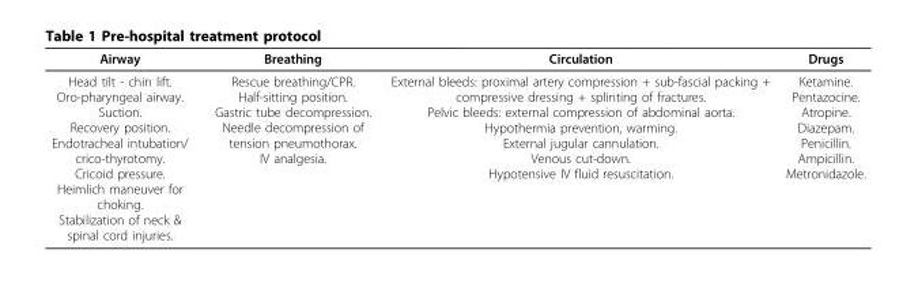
<table><thead><tr><td>Airway</td><td>Breathing</td><td>Circulation</td><td>Drugs</td></tr></thead><tbody><tr><td>Head tilt - chin lift. Oro-pharyngeal airway. Suction. Recovery position. Endotracheal intubation/ crico-thyrotomy. Cricoid pressure. Heimlich maneuver for choking. Stabilization of neck &amp; spinal cord injuries.</td><td>Rescue breathing/CPR. Half-sitting position. Gastric tube decompression. Needle decompression of tension pneumothorax. IV analgesia.</td><td>External bleeds: proximal artery compression + sub-fascial packing + compressive dressing + splinting of fractures. Pelvic bleeds: external compression of abdominal aorta. Hypothermia prevention, warming. External jugular cannulation. Venous cut-down. Hypotensive IV fluid resuscitation.</td><td>Ketamine. Pentazocine. Atropine. Diazepam. Penicillin. Ampicillin. Metronidazole.</td></tr></tbody></table>